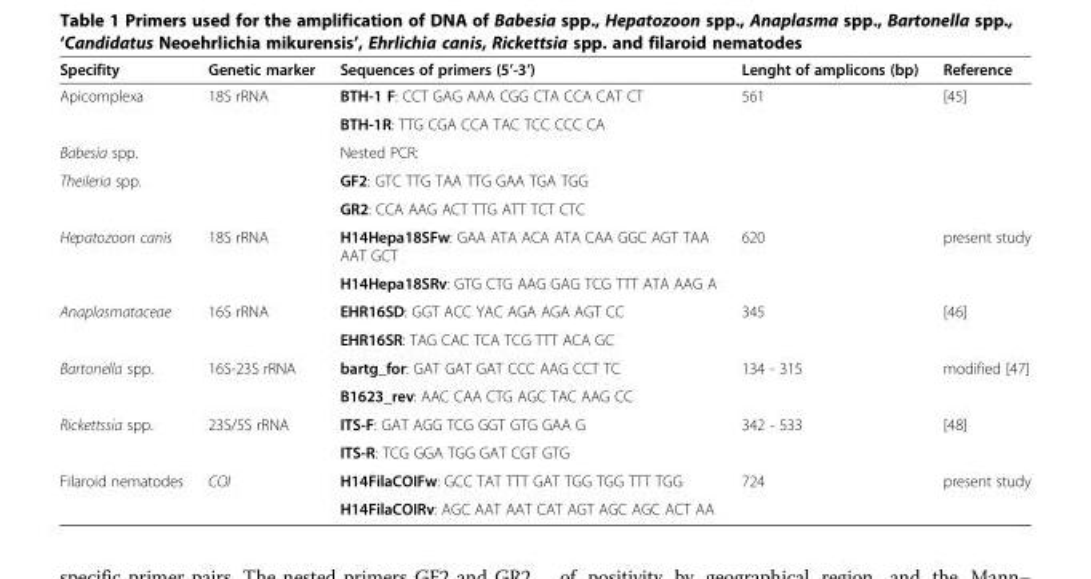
<table><thead><tr><td>Specifity</td><td>Genetic marker</td><td>Sequences of primers (5’-3’)</td><td>Lenght of amplicons (bp)</td><td>Reference</td></tr></thead><tbody><tr><td rowspan="2">Apicomplexa</td><td rowspan="5">18S rRNA</td><td>BTH-1 F: CCT GAG AAA CGG CTA CCA CAT CT</td><td rowspan="5">561</td><td rowspan="5">[45]</td></tr><tr><td>BTH-1R: TTG CGA CCA TAC TCC CCC CA</td></tr><tr><td>Babesia spp.</td><td>Nested PCR:</td></tr><tr><td rowspan="2">Theileria spp.</td><td>GF2: GTC TTG TAA TTG GAA TGA TGG</td></tr><tr><td>GR2: CCA AAG ACT TTG ATT TCT CTC</td></tr><tr><td rowspan="2">Hepatozoon canis</td><td rowspan="2">18S rRNA</td><td>H14Hepa18SFw: GAA ATA ACA ATA CAA GGC AGT TAA AAT GCT</td><td rowspan="2">620</td><td rowspan="2">present study</td></tr><tr><td>H14Hepa18SRv: GTG CTG AAG GAG TCG TTT ATA AAG A</td></tr><tr><td rowspan="2">Anaplasmataceae</td><td rowspan="2">16S rRNA</td><td>EHR16SD: GGT ACC YAC AGA AGA AGT CC</td><td rowspan="2">345</td><td rowspan="2">[46]</td></tr><tr><td>EHR16SR: TAG CAC TCA TCG TTT ACA GC</td></tr><tr><td rowspan="2">Bartonella spp.</td><td rowspan="2">16S-23S rRNA</td><td>bartg_for: GAT GAT GAT CCC AAG CCT TC</td><td rowspan="2">134 - 315</td><td rowspan="2">modified [47]</td></tr><tr><td>B1623_rev: AAC CAA CTG AGC TAC AAG CC</td></tr><tr><td rowspan="2">Rickettssia spp.</td><td rowspan="2">23S/5S rRNA</td><td>ITS-F: GAT AGG TCG GGT GTG GAA G</td><td rowspan="2">342 - 533</td><td rowspan="2">[48]</td></tr><tr><td>ITS-R: TCG GGA TGG GAT CGT GTG</td></tr><tr><td rowspan="2">Filaroid nematodes</td><td rowspan="2">COI</td><td>H14FilaCOIFw: GCC TAT TTT GAT TGG TGG TTT TGG</td><td rowspan="2">724</td><td rowspan="2">present study</td></tr><tr><td>H14FilaCOIRv: AGC AAT AAT CAT AGT AGC AGC ACT AA</td></tr></tbody></table>